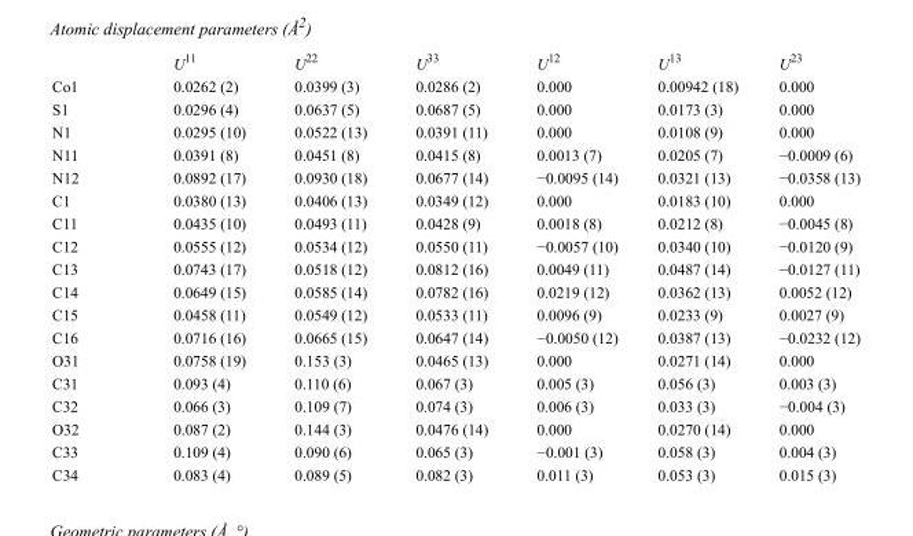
<table><thead><tr><td></td><td>U<sup>11</sup></td><td>U<sup>22</sup></td><td>U<sup>33</sup></td><td>U<sup>12</sup></td><td>U<sup>13</sup></td><td>U<sup>23</sup></td></tr></thead><tbody><tr><td>Co1</td><td>0.0262 (2)</td><td>0.0399 (3)</td><td>0.0286 (2)</td><td>0.000</td><td>0.00942 (18)</td><td>0.000</td></tr><tr><td>S1</td><td>0.0296 (4)</td><td>0.0637 (5)</td><td>0.0687 (5)</td><td>0.000</td><td>0.0173 (3)</td><td>0.000</td></tr><tr><td>N1</td><td>0.0295 (10)</td><td>0.0522 (13)</td><td>0.0391 (11)</td><td>0.000</td><td>0.0108 (9)</td><td>0.000</td></tr><tr><td>N11</td><td>0.0391 (8)</td><td>0.0451 (8)</td><td>0.0415 (8)</td><td>0.0013 (7)</td><td>0.0205 (7)</td><td>−0.0009 (6)</td></tr><tr><td>N12</td><td>0.0892 (17)</td><td>0.0930 (18)</td><td>0.0677 (14)</td><td>−0.0095 (14)</td><td>0.0321 (13)</td><td>−0.0358 (13)</td></tr><tr><td>C1</td><td>0.0380 (13)</td><td>0.0406 (13)</td><td>0.0349 (12)</td><td>0.000</td><td>0.0183 (10)</td><td>0.000</td></tr><tr><td>C11</td><td>0.0435 (10)</td><td>0.0493 (11)</td><td>0.0428 (9)</td><td>0.0018 (8)</td><td>0.0212 (8)</td><td>−0.0045 (8)</td></tr><tr><td>C12</td><td>0.0555 (12)</td><td>0.0534 (12)</td><td>0.0550 (11)</td><td>−0.0057 (10)</td><td>0.0340 (10)</td><td>−0.0120 (9)</td></tr><tr><td>C13</td><td>0.0743 (17)</td><td>0.0518 (12)</td><td>0.0812 (16)</td><td>0.0049 (11)</td><td>0.0487 (14)</td><td>−0.0127 (11)</td></tr><tr><td>C14</td><td>0.0649 (15)</td><td>0.0585 (14)</td><td>0.0782 (16)</td><td>0.0219 (12)</td><td>0.0362 (13)</td><td>0.0052 (12)</td></tr><tr><td>C15</td><td>0.0458 (11)</td><td>0.0549 (12)</td><td>0.0533 (11)</td><td>0.0096 (9)</td><td>0.0233 (9)</td><td>0.0027 (9)</td></tr><tr><td>C16</td><td>0.0716 (16)</td><td>0.0665 (15)</td><td>0.0647 (14)</td><td>−0.0050 (12)</td><td>0.0387 (13)</td><td>−0.0232 (12)</td></tr><tr><td>O31</td><td>0.0758 (19)</td><td>0.153 (3)</td><td>0.0465 (13)</td><td>0.000</td><td>0.0271 (14)</td><td>0.000</td></tr><tr><td>C31</td><td>0.093 (4)</td><td>0.110 (6)</td><td>0.067 (3)</td><td>0.005 (3)</td><td>0.056 (3)</td><td>0.003 (3)</td></tr><tr><td>C32</td><td>0.066 (3)</td><td>0.109 (7)</td><td>0.074 (3)</td><td>0.006 (3)</td><td>0.033 (3)</td><td>−0.004 (3)</td></tr><tr><td>O32</td><td>0.087 (2)</td><td>0.144 (3)</td><td>0.0476 (14)</td><td>0.000</td><td>0.0270 (14)</td><td>0.000</td></tr><tr><td>C33</td><td>0.109 (4)</td><td>0.090 (6)</td><td>0.065 (3)</td><td>−0.001 (3)</td><td>0.058 (3)</td><td>0.004 (3)</td></tr><tr><td>C34</td><td>0.083 (4)</td><td>0.089 (5)</td><td>0.082 (3)</td><td>0.011 (3)</td><td>0.053 (3)</td><td>0.015 (3)</td></tr></tbody></table>